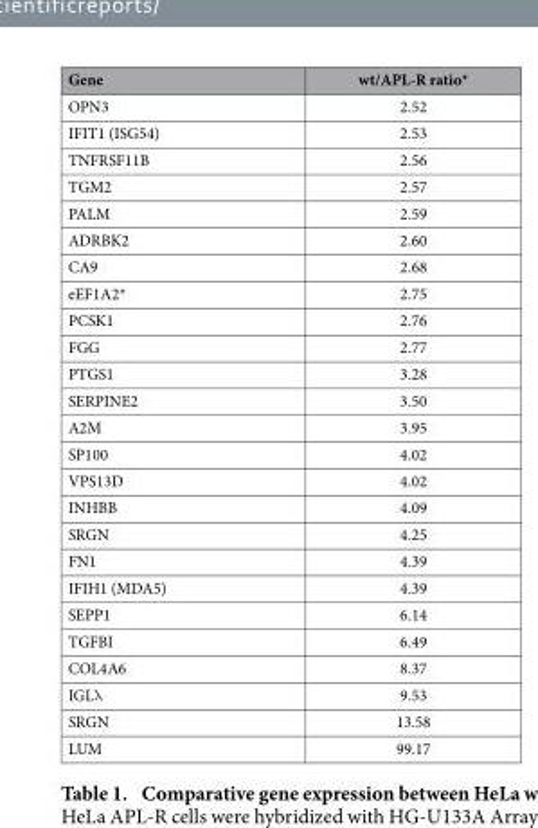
<table><thead><tr><td>Gene</td><td>wt/APL-R ratio*</td></tr></thead><tbody><tr><td>OPN3</td><td>2.52</td></tr><tr><td>IFIT1 (ISG54)</td><td>2.53</td></tr><tr><td>TNFRSF11B</td><td>2.56</td></tr><tr><td>TGM2</td><td>2.57</td></tr><tr><td>PALM</td><td>2.59</td></tr><tr><td>ADRBK2</td><td>2.60</td></tr><tr><td>CA9</td><td>2.68</td></tr><tr><td>eEF1A2*</td><td>2.75</td></tr><tr><td>PCSK1</td><td>2.76</td></tr><tr><td>FGG</td><td>2.77</td></tr><tr><td>PTGS1</td><td>3.28</td></tr><tr><td>SERPINE2</td><td>3.50</td></tr><tr><td>A2M</td><td>3.95</td></tr><tr><td>SP100</td><td>4.02</td></tr><tr><td>VPS13D</td><td>4.02</td></tr><tr><td>INHBB</td><td>4.09</td></tr><tr><td>SRGN</td><td>4.25</td></tr><tr><td>FN1</td><td>4.39</td></tr><tr><td>IFIH1 (MDA5)</td><td>4.39</td></tr><tr><td>SEPP1</td><td>6.14</td></tr><tr><td>TGFBI</td><td>6.49</td></tr><tr><td>COL4A6</td><td>8.37</td></tr><tr><td>IGLλ</td><td>9.53</td></tr><tr><td>SRGN</td><td>13.58</td></tr><tr><td>LUM</td><td>99.17</td></tr></tbody></table>